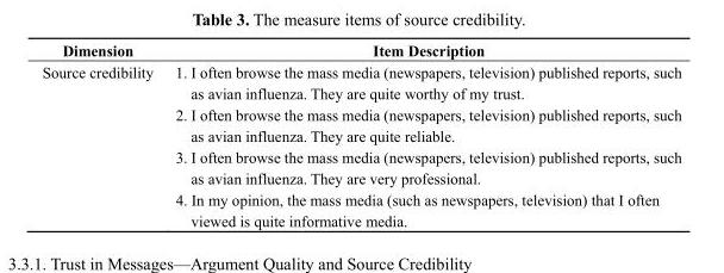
<table><thead><tr><td rowspan="2">Dimension Source credibility</td><td colspan="2">Item Description</td></tr><tr><td>1.</td><td>I often browse the mass media (newspapers, television) published reports, such as avian influenza. They are quite worthy of my trust.</td></tr></thead><tbody><tr><td></td><td>2.</td><td>I often browse the mass media (newspapers, television) published reports, such as avian influenza. They are quite reliable.</td></tr><tr><td></td><td>3.</td><td>I often browse the mass media (newspapers, television) published reports, such as avian influenza. They are very professional.</td></tr><tr><td></td><td>4.</td><td>In my opinion, the mass media (such as newspapers, television) that I often viewed is quite informative media.</td></tr></tbody></table>